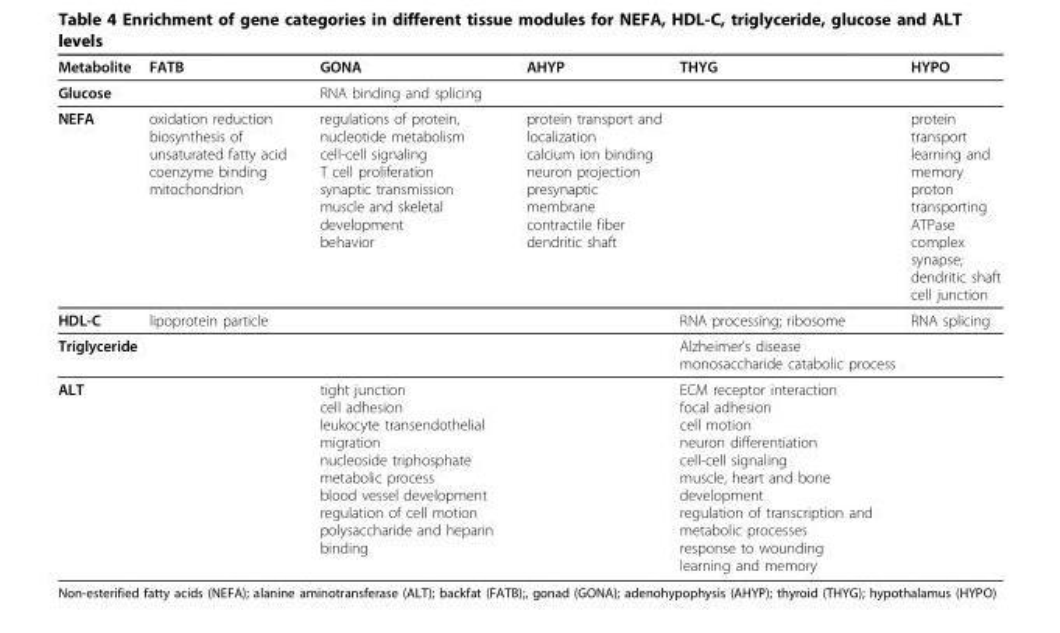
<table><thead><tr><td>Metabolite</td><td>FATB</td><td>GONA</td><td>AHYP</td><td>THYG</td><td>HYPO</td></tr></thead><tbody><tr><td>Glucose</td><td></td><td>RNA binding and splicing</td><td></td><td></td><td></td></tr><tr><td>NEFA</td><td>oxidation reduction biosynthesis of unsaturated fatty acid coenzyme binding mitochondrion</td><td>regulations of protein, nucleotide metabolism cell-cell signaling T cell proliferation synaptic transmission muscle and skeletal development behavior</td><td>protein transport and localization calcium ion binding neuron projection presynaptic membrane contractile fiber dendritic shaft</td><td></td><td>protein transport learning and memory proton transporting ATPase complex synapse; dendritic shaft cell junction</td></tr><tr><td>HDL-C</td><td>lipoprotein particle</td><td></td><td></td><td>RNA processing; ribosome</td><td>RNA splicing</td></tr><tr><td>Triglyceride</td><td></td><td></td><td></td><td>Alzheimer’s disease monosaccharide catabolic process</td><td></td></tr><tr><td>ALT</td><td></td><td>tight junction cell adhesion leukocyte transendothelial migration nucleoside triphosphate metabolic process blood vessel development regulation of cell motion polysaccharide and heparin binding</td><td></td><td>ECM receptor interaction focal adhesion cell motion neuron differentiation cell-cell signaling muscle, heart and bone development regulation of transcription and metabolic processes response to wounding learning and memory</td><td></td></tr></tbody></table>